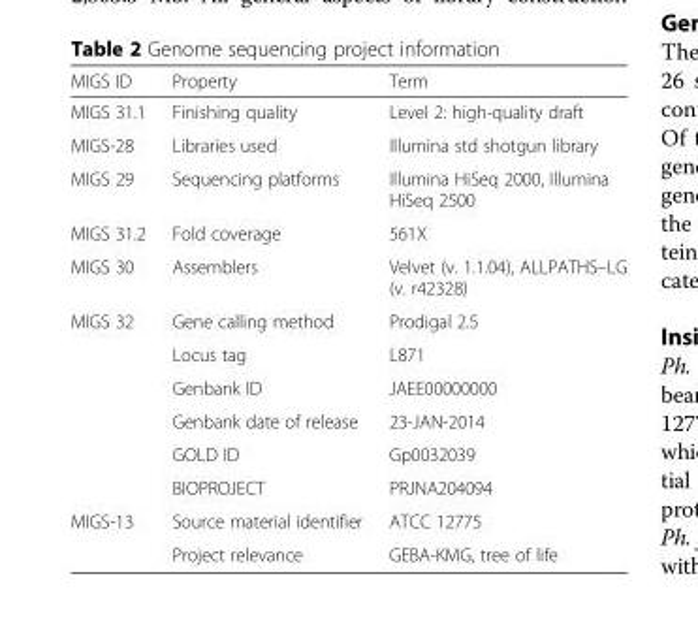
<table><thead><tr><td>MIGS ID</td><td>Property</td><td>Term</td></tr></thead><tbody><tr><td>MIGS 31.1</td><td>Finishing quality</td><td>Level 2: high-quality draft</td></tr><tr><td>MIGS-28</td><td>Libraries used</td><td>Illumina std shotgun library</td></tr><tr><td>MIGS 29</td><td>Sequencing platforms</td><td>Illumina HiSeq 2000, Illumina HiSeq 2500</td></tr><tr><td>MIGS 31.2</td><td>Fold coverage</td><td>561X</td></tr><tr><td>MIGS 30</td><td>Assemblers</td><td>Velvet (v. 1.1.04), ALLPATHS–LG (v. r42328)</td></tr><tr><td rowspan="6">MIGS 32</td><td>Gene calling method</td><td>Prodigal 2.5</td></tr><tr><td>Locus tag</td><td>L871</td></tr><tr><td>Genbank ID</td><td>JAEE00000000</td></tr><tr><td>Genbank date of release</td><td>23-JAN-2014</td></tr><tr><td>GOLD ID</td><td>Gp0032039</td></tr><tr><td>BIOPROJECT</td><td>PRJNA204094</td></tr><tr><td rowspan="2">MIGS-13</td><td>Source material identifier</td><td>ATCC 12775</td></tr><tr><td>Project relevance</td><td>GEBA-KMG, tree of life</td></tr></tbody></table>